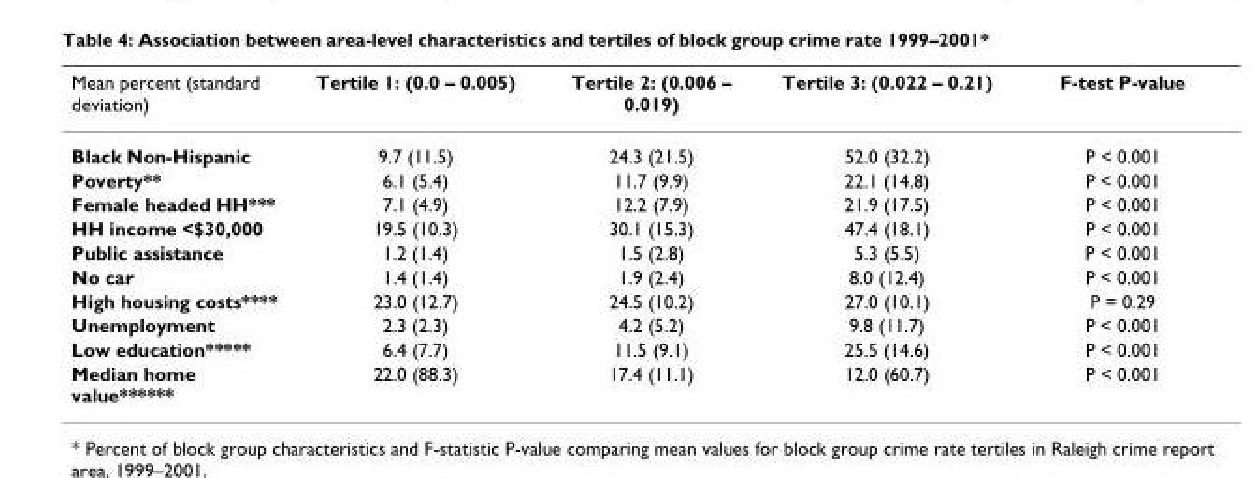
<table><thead><tr><td>Mean percent (standard deviation)</td><td>Tertile 1: (0.0 – 0.005)</td><td>Tertile 2: (0.006 – 0.019)</td><td>Tertile 3: (0.022 – 0.21)</td><td>F-test P-value</td></tr></thead><tbody><tr><td>Black Non-Hispanic</td><td>9.7 (11.5)</td><td>24.3 (21.5)</td><td>52.0 (32.2)</td><td>P &lt; 0.001</td></tr><tr><td>Poverty**</td><td>6.1 (5.4)</td><td>11.7 (9.9)</td><td>22.1 (14.8)</td><td>P &lt; 0.001</td></tr><tr><td>Female headed HH***</td><td>7.1 (4.9)</td><td>12.2 (7.9)</td><td>21.9 (17.5)</td><td>P &lt; 0.001</td></tr><tr><td>HH income &lt;$30,000</td><td>19.5 (10.3)</td><td>30.1 (15.3)</td><td>47.4 (18.1)</td><td>P &lt; 0.001</td></tr><tr><td>Public assistance</td><td>1.2 (1.4)</td><td>1.5 (2.8)</td><td>5.3 (5.5)</td><td>P &lt; 0.001</td></tr><tr><td>No car</td><td>1.4 (1.4)</td><td>1.9 (2.4)</td><td>8.0 (12.4)</td><td>P &lt; 0.001</td></tr><tr><td>High housing costs****</td><td>23.0 (12.7)</td><td>24.5 (10.2)</td><td>27.0 (10.1)</td><td>P = 0.29</td></tr><tr><td>Unemployment</td><td>2.3 (2.3)</td><td>4.2 (5.2)</td><td>9.8 (11.7)</td><td>P &lt; 0.001</td></tr><tr><td>Low education*****</td><td>6.4 (7.7)</td><td>11.5 (9.1)</td><td>25.5 (14.6)</td><td>P &lt; 0.001</td></tr><tr><td>Median home value******</td><td>22.0 (88.3)</td><td>17.4 (11.1)</td><td>12.0 (60.7)</td><td>P &lt; 0.001</td></tr></tbody></table>